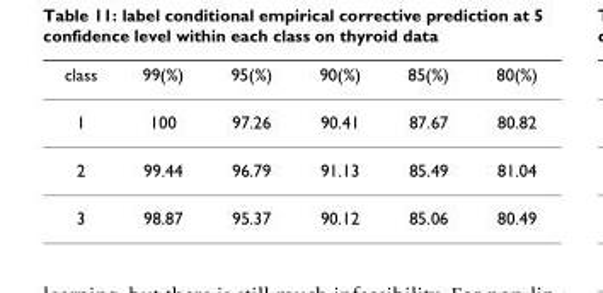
<table><thead><tr><td>class</td><td>99(%)</td><td>95(%)</td><td>90(%)</td><td>85(%)</td><td>80(%)</td></tr></thead><tbody><tr><td>1</td><td>100</td><td>97.26</td><td>90.41</td><td>87.67</td><td>80.82</td></tr><tr><td>2</td><td>99.44</td><td>96.79</td><td>91.13</td><td>85.49</td><td>81.04</td></tr><tr><td>3</td><td>98.87</td><td>95.37</td><td>90.12</td><td>85.06</td><td>80.49</td></tr></tbody></table>